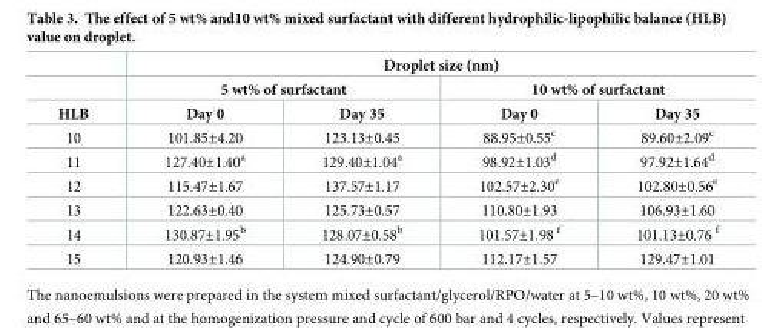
<table><thead><tr><td rowspan="3">HLB</td><td colspan="4">Droplet size (nm)</td></tr><tr><td colspan="2">5 wt% of surfactant</td><td colspan="2">10 wt% of surfactant</td></tr><tr><td>Day 0</td><td>Day 35</td><td>Day 0</td><td>Day 35</td></tr></thead><tbody><tr><td>10</td><td>101.85±4.20</td><td>123.13±0.45</td><td>88.95±0.55<sup>c</sup></td><td>89.60±2.09<sup>c</sup></td></tr><tr><td>11</td><td>127.40±1.40<sup>a</sup></td><td>129.40±1.04<sup>a</sup></td><td>98.92±1.03<sup>d</sup></td><td>97.92±1.64<sup>d</sup></td></tr><tr><td>12</td><td>115.47±1.67</td><td>137.57±1.17</td><td>102.57±2.30<sup>e</sup></td><td>102.80±0.56<sup>e</sup></td></tr><tr><td>13</td><td>122.63±0.40</td><td>125.73±0.57</td><td>110.80±1.93</td><td>106.93±1.60</td></tr><tr><td>14</td><td>130.87±1.95<sup>b</sup></td><td>128.07±0.58<sup>b</sup></td><td>101.57±1.98 <sup>f</sup></td><td>101.13±0.76 <sup>f</sup></td></tr><tr><td>15</td><td>120.93±1.46</td><td>124.90±0.79</td><td>112.17±1.57</td><td>129.47±1.01</td></tr></tbody></table>